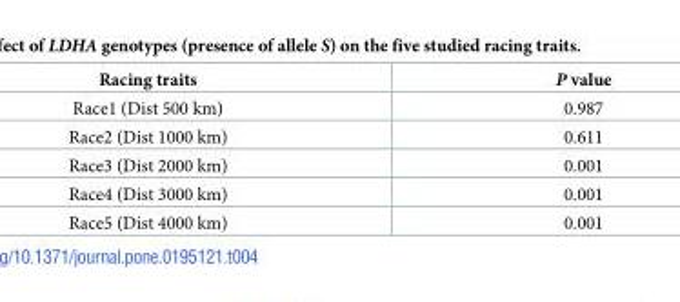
<table><thead><tr><td>Racing traits</td><td>P value</td></tr></thead><tbody><tr><td>Race1 (Dist 500 km)</td><td>0.987</td></tr><tr><td>Race2 (Dist 1000 km)</td><td>0.611</td></tr><tr><td>Race3 (Dist 2000 km)</td><td>0.001</td></tr><tr><td>Race4 (Dist 3000 km)</td><td>0.001</td></tr><tr><td>Race5 (Dist 4000 km)</td><td>0.001</td></tr></tbody></table>